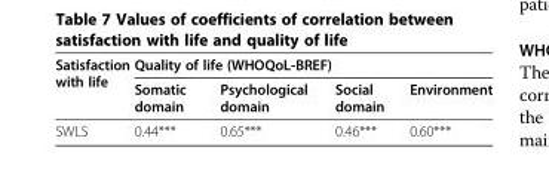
<table><thead><tr><td rowspan="2">Satisfaction with life</td><td colspan="4">Quality of life (WHOQoL-BREF)</td></tr><tr><td>Somatic domain</td><td>Psychological domain</td><td>Social domain</td><td>Environment</td></tr></thead><tbody><tr><td>SWLS</td><td>0.44***</td><td>0.65***</td><td>0.46***</td><td>0.60***</td></tr></tbody></table>